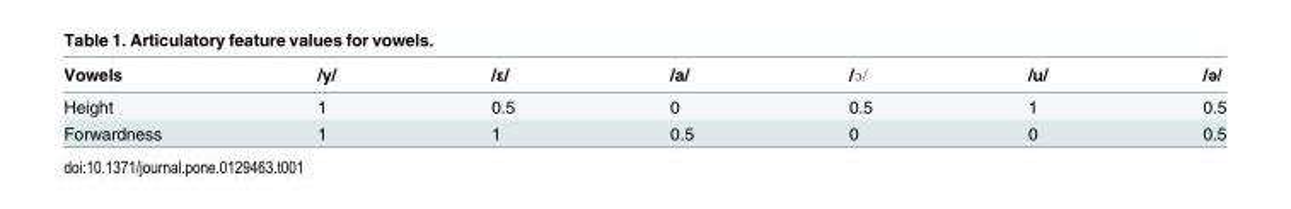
<table><thead><tr><td>Vowels</td><td>/y/</td><td>/ε/</td><td>/a/</td><td>/ɔ/</td><td>/u/</td><td>/ә/</td></tr></thead><tbody><tr><td>Height</td><td>1</td><td>0.5</td><td>0</td><td>0.5</td><td>1</td><td>0.5</td></tr><tr><td>Forwardness</td><td>1</td><td>1</td><td>0.5</td><td>0</td><td>0</td><td>0.5</td></tr></tbody></table>